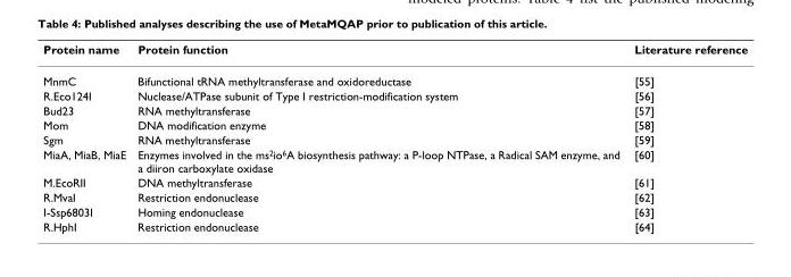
<table><thead><tr><td>Protein name</td><td>Protein function</td><td>Literature reference</td></tr></thead><tbody><tr><td>MnmC</td><td>Bifunctional tRNA methyltransferase and oxidoreductase</td><td>[55]</td></tr><tr><td>R.Eco124I</td><td>Nuclease/ATPase subunit of Type I restriction-modification system</td><td>[56]</td></tr><tr><td>Bud23</td><td>RNA methyltransferase</td><td>[57]</td></tr><tr><td>Mom</td><td>DNA modification enzyme</td><td>[58]</td></tr><tr><td>Sgm</td><td>RNA methyltransferase</td><td>[59]</td></tr><tr><td>MiaA, MiaB, MiaE</td><td>Enzymes involved in the ms<sup>2</sup>io<sup>6</sup>A biosynthesis pathway: a P-loop NTPase, a Radical SAM enzyme, and a diiron carboxylate oxidase</td><td>[60]</td></tr><tr><td>M.EcoRII</td><td>DNA methyltransferase</td><td>[61]</td></tr><tr><td>R.MvaI</td><td>Restriction endonuclease</td><td>[62]</td></tr><tr><td>I-Ssp6803I</td><td>Homing endonuclease</td><td>[63]</td></tr><tr><td>R.HphI</td><td>Restriction endonuclease</td><td>[64]</td></tr></tbody></table>